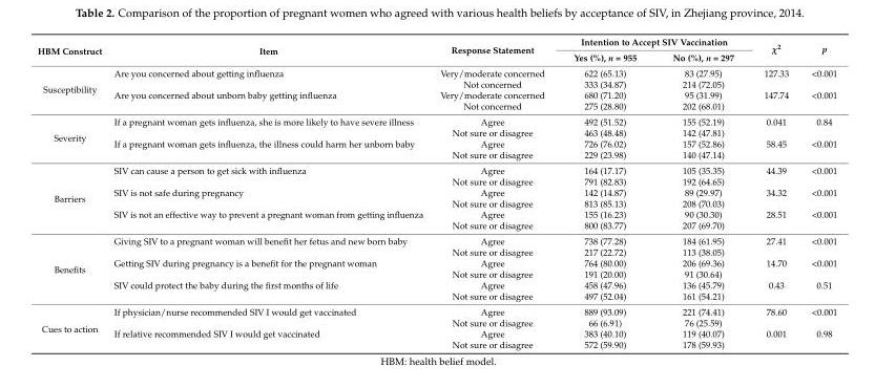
<table><thead><tr><td rowspan="2">HBM Construct</td><td rowspan="2">Item</td><td rowspan="2">Response Statement</td><td colspan="2">Intention to Accept SIV Vaccination</td><td rowspan="2">χ<sup>2</sup></td><td rowspan="2">p</td></tr><tr><td>Yes (%), n = 955</td><td>No (%), n = 297</td></tr></thead><tbody><tr><td rowspan="4">Susceptibility</td><td>Are you concerned about getting influenza</td><td>Very/moderate concerned</td><td>622 (65.13)</td><td>83 (27.95)</td><td>127.33</td><td>&lt;0.001</td></tr><tr><td></td><td>Not concerned</td><td>333 (34.87)</td><td>214 (72.05)</td><td></td><td></td></tr><tr><td>Are you concerned about unborn baby getting influenza</td><td>Very/moderate concerned</td><td>680 (71.20)</td><td>95 (31.99)</td><td>147.74</td><td>&lt;0.001</td></tr><tr><td></td><td>Not concerned</td><td>275 (28.80)</td><td>202 (68.01)</td><td></td><td></td></tr><tr><td rowspan="4">Severity</td><td>If a pregnant woman gets influenza, she is more likely to have severe illness</td><td>Agree</td><td>492 (51.52)</td><td>155 (52.19)</td><td>0.041</td><td>0.84</td></tr><tr><td></td><td>Not sure or disagree</td><td>463 (48.48)</td><td>142 (47.81)</td><td></td><td></td></tr><tr><td>If a pregnant woman gets influenza, the illness could harm her unborn baby</td><td>Agree</td><td>726 (76.02)</td><td>157 (52.86)</td><td>58.45</td><td>&lt;0.001</td></tr><tr><td></td><td>Not sure or disagree</td><td>229 (23.98)</td><td>140 (47.14)</td><td></td><td></td></tr><tr><td rowspan="6">Barriers</td><td>SIV can cause a person to get sick with influenza</td><td>Agree</td><td>164 (17.17)</td><td>105 (35.35)</td><td>44.39</td><td>&lt;0.001</td></tr><tr><td></td><td>Not sure or disagree</td><td>791 (82.83)</td><td>192 (64.65)</td><td></td><td></td></tr><tr><td>SIV is not safe during pregnancy</td><td>Agree</td><td>142 (14.87)</td><td>89 (29.97)</td><td>34.32</td><td>&lt;0.001</td></tr><tr><td></td><td>Not sure or disagree</td><td>813 (85.13)</td><td>208 (70.03)</td><td></td><td></td></tr><tr><td>SIV is not an effective way to prevent a pregnant woman from getting influenza</td><td>Agree</td><td>155 (16.23)</td><td>90 (30.30)</td><td>28.51</td><td>&lt;0.001</td></tr><tr><td></td><td>Not sure or disagree</td><td>800 (83.77)</td><td>207 (69.70)</td><td></td><td></td></tr><tr><td rowspan="6">Benefits</td><td>Giving SIV to a pregnant woman will benefit her fetus and new born baby</td><td>Agree</td><td>738 (77.28)</td><td>184 (61.95)</td><td>27.41</td><td>&lt;0.001</td></tr><tr><td></td><td>Not sure or disagree</td><td>217 (22.72)</td><td>113 (38.05)</td><td></td><td></td></tr><tr><td>Getting SIV during pregnancy is a benefit for the pregnant woman</td><td>Agree</td><td>764 (80.00)</td><td>206 (69.36)</td><td>14.70</td><td>&lt;0.001</td></tr><tr><td></td><td>Not sure or disagree</td><td>191 (20.00)</td><td>91 (30.64)</td><td></td><td></td></tr><tr><td>SIV could protect the baby during the first months of life</td><td>Agree</td><td>458 (47.96)</td><td>136 (45.79)</td><td>0.43</td><td>0.51</td></tr><tr><td></td><td>Not sure or disagree</td><td>497 (52.04)</td><td>161 (54.21)</td><td></td><td></td></tr><tr><td rowspan="4">Cues to action</td><td>If physician/nurse recommended SIV I would get vaccinated</td><td>Agree</td><td>889 (93.09)</td><td>221 (74.41)</td><td>78.60</td><td>&lt;0.001</td></tr><tr><td></td><td>Not sure or disagree</td><td>66 (6.91)</td><td>76 (25.59)</td><td></td><td></td></tr><tr><td>If relative recommended SIV I would get vaccinated</td><td>Agree</td><td>383 (40.10)</td><td>119 (40.07)</td><td>0.001</td><td>0.98</td></tr><tr><td></td><td>Not sure or disagree</td><td>572 (59.90)</td><td>178 (59.93)</td><td></td><td></td></tr></tbody></table>